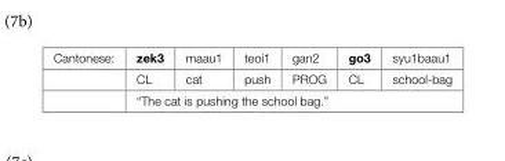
<table><tbody><tr><td rowspan="3">Cantonese:</td><td>zek3</td><td>maau1</td><td>teoi1</td><td>gan2</td><td>go3</td><td>syu1baau1</td></tr><tr><td>CL</td><td>cat</td><td>push</td><td>PROG</td><td>CL</td><td>school-bag</td></tr><tr><td colspan="6">“The cat is pushing the school bag.”</td></tr></tbody></table>